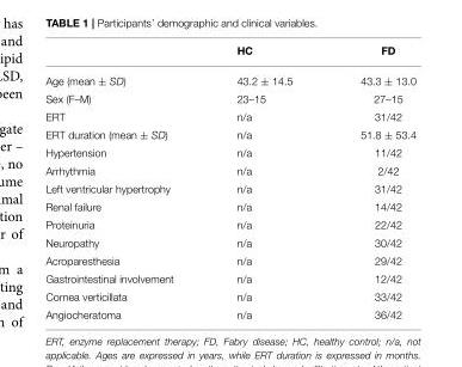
<table><thead><tr><td></td><td>HC</td><td>FD</td></tr></thead><tbody><tr><td>Age (mean ± SD)</td><td>43.2 ± 14.5</td><td>43.3 ± 13.0</td></tr><tr><td>Sex (F–M)</td><td>23–15</td><td>27–15</td></tr><tr><td>ERT</td><td>n/a</td><td>31/42</td></tr><tr><td>ERT duration (mean ± SD)</td><td>n/a</td><td>51.8 ± 53.4</td></tr><tr><td>Hypertension</td><td>n/a</td><td>11/42</td></tr><tr><td>Arrhythmia</td><td>n/a</td><td>2/42</td></tr><tr><td>Left ventricular hypertrophy</td><td>n/a</td><td>31/42</td></tr><tr><td>Renal failure</td><td>n/a</td><td>14/42</td></tr><tr><td>Proteinuria</td><td>n/a</td><td>22/42</td></tr><tr><td>Neuropathy</td><td>n/a</td><td>30/42</td></tr><tr><td>Acroparesthesia</td><td>n/a</td><td>29/42</td></tr><tr><td>Gastrointestinal involvement</td><td>n/a</td><td>12/42</td></tr><tr><td>Cornea verticillata</td><td>n/a</td><td>33/42</td></tr><tr><td>Angiocheratoma</td><td>n/a</td><td>36/42</td></tr></tbody></table>